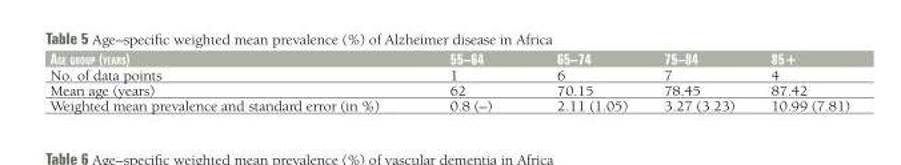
<table><thead><tr><td>age group (years)</td><td>55–64</td><td>65–74</td><td>75–84</td><td>85+</td></tr></thead><tbody><tr><td>No. of data points</td><td>1</td><td>6</td><td>7</td><td>4</td></tr><tr><td>Mean age (years)</td><td>62</td><td>70.15</td><td>78.45</td><td>87.42</td></tr><tr><td>Weighted mean prevalence and standard error (in %)</td><td>0.8 (–)</td><td>2.11 (1.05)</td><td>3.27 (3.23)</td><td>10.99 (7.81)</td></tr></tbody></table>